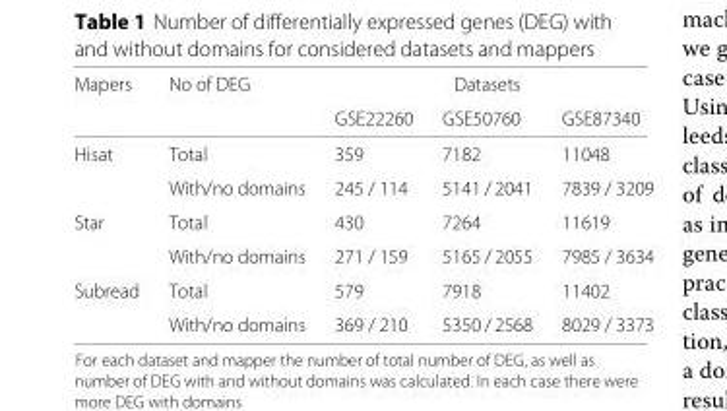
<table><thead><tr><td rowspan="2">Mapers</td><td rowspan="2">No of DEG</td><td colspan="3">Datasets</td></tr><tr><td>GSE22260</td><td>GSE50760</td><td>GSE87340</td></tr></thead><tbody><tr><td rowspan="2">Hisat</td><td>Total</td><td>359</td><td>7182</td><td>11048</td></tr><tr><td>With/no domains</td><td>245 / 114</td><td>5141 / 2041</td><td>7839 / 3209</td></tr><tr><td rowspan="2">Star</td><td>Total</td><td>430</td><td>7264</td><td>11619</td></tr><tr><td>With/no domains</td><td>271 / 159</td><td>5165 / 2055</td><td>7985 / 3634</td></tr><tr><td rowspan="2">Subread</td><td>Total</td><td>579</td><td>7918</td><td>11402</td></tr><tr><td>With/no domains</td><td>369 / 210</td><td>5350 / 2568</td><td>8029 / 3373</td></tr></tbody></table>